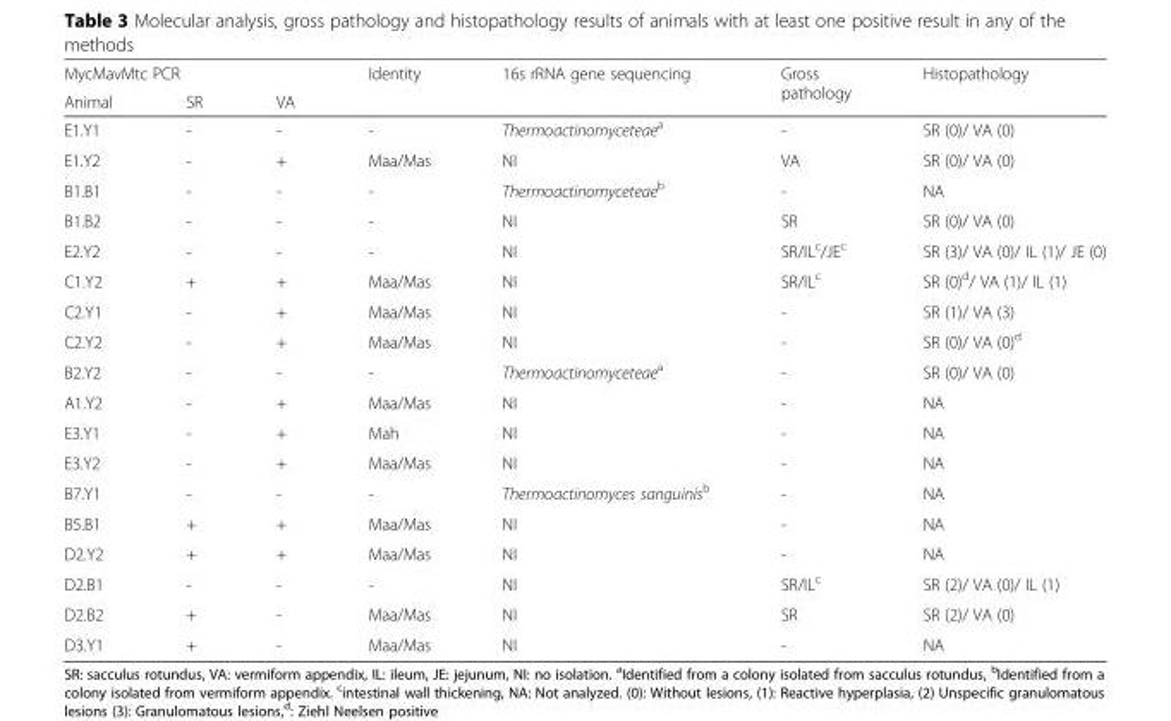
<table><thead><tr><td colspan="3">MycMavMtc PCR</td><td rowspan="2">Identity</td><td rowspan="2">16s rRNA gene sequencing</td><td rowspan="2">Gross pathology</td><td rowspan="2">Histopathology</td></tr><tr><td>Animal</td><td>SR</td><td>VA</td></tr></thead><tbody><tr><td>E1.Y1</td><td>-</td><td>-</td><td>-</td><td>Thermoactinomyceteae<sup>a</sup></td><td>-</td><td>SR (0)/ VA (0)</td></tr><tr><td>E1.Y2</td><td>-</td><td>+</td><td>Maa/Mas</td><td>NI</td><td>VA</td><td>SR (0)/ VA (0)</td></tr><tr><td>B1.B1</td><td>-</td><td>-</td><td>-</td><td>Thermoactinomyceteae<sup>b</sup></td><td>-</td><td>NA</td></tr><tr><td>B1.B2</td><td>-</td><td>-</td><td>-</td><td>NI</td><td>SR</td><td>SR (0)/ VA (0)</td></tr><tr><td>E2.Y2</td><td>-</td><td>-</td><td>-</td><td>NI</td><td>SR/IL<sup>c</sup>/JE<sup>c</sup></td><td>SR (3)/ VA (0)/ IL (1)/ JE (0)</td></tr><tr><td>C1.Y2</td><td>+</td><td>+</td><td>Maa/Mas</td><td>NI</td><td>SR/IL<sup>c</sup></td><td>SR (0)<sup>d</sup>/ VA (1)/ IL (1)</td></tr><tr><td>C2.Y1</td><td>-</td><td>+</td><td>Maa/Mas</td><td>NI</td><td>-</td><td>SR (1)/ VA (3)</td></tr><tr><td>C2.Y2</td><td>-</td><td>+</td><td>Maa/Mas</td><td>NI</td><td>-</td><td>SR (0)/ VA (0)<sup>d</sup></td></tr><tr><td>B2.Y2</td><td>-</td><td>-</td><td>-</td><td>Thermoactinomyceteae<sup>a</sup></td><td>-</td><td>SR (0)/ VA (0)</td></tr><tr><td>A1.Y2</td><td>-</td><td>+</td><td>Maa/Mas</td><td>NI</td><td>-</td><td>NA</td></tr><tr><td>E3.Y1</td><td>-</td><td>+</td><td>Mah</td><td>NI</td><td>-</td><td>NA</td></tr><tr><td>E3.Y2</td><td>-</td><td>+</td><td>Maa/Mas</td><td>NI</td><td>-</td><td>NA</td></tr><tr><td>B7.Y1</td><td>-</td><td>-</td><td>-</td><td>Thermoactinomyces sanguinis<sup>b</sup></td><td>-</td><td>NA</td></tr><tr><td>B5.B1</td><td>+</td><td>+</td><td>Maa/Mas</td><td>NI</td><td>-</td><td>NA</td></tr><tr><td>D2.Y2</td><td>+</td><td>+</td><td>Maa/Mas</td><td>NI</td><td>-</td><td>NA</td></tr><tr><td>D2.B1</td><td>-</td><td>-</td><td>-</td><td>NI</td><td>SR/IL<sup>c</sup></td><td>SR (2)/ VA (0)/ IL (1)</td></tr><tr><td>D2.B2</td><td>+</td><td>-</td><td>Maa/Mas</td><td>NI</td><td>SR</td><td>SR (2)/ VA (0)</td></tr><tr><td>D3.Y1</td><td>+</td><td>-</td><td>Maa/Mas</td><td>NI</td><td>-</td><td>NA</td></tr></tbody></table>